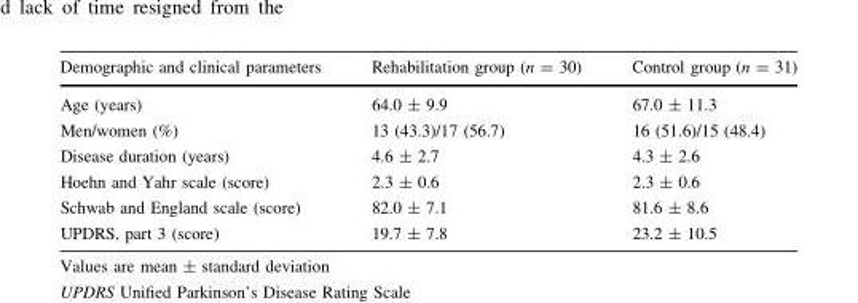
<table><thead><tr><td>Demographic and clinical parameters</td><td>Rehabilitation group (n = 30)</td><td>Control group (n = 31)</td></tr></thead><tbody><tr><td>Age (years)</td><td>64.0 ± 9.9</td><td>67.0 ± 11.3</td></tr><tr><td>Men/women (%)</td><td>13 (43.3)/17 (56.7)</td><td>16 (51.6)/15 (48.4)</td></tr><tr><td>Disease duration (years)</td><td>4.6 ± 2.7</td><td>4.3 ± 2.6</td></tr><tr><td>Hoehn and Yahr scale (score)</td><td>2.3 ± 0.6</td><td>2.3 ± 0.6</td></tr><tr><td>Schwab and England scale (score)</td><td>82.0 ± 7.1</td><td>81.6 ± 8.6</td></tr><tr><td>UPDRS, part 3 (score)</td><td>19.7 ± 7.8</td><td>23.2 ± 10.5</td></tr></tbody></table>